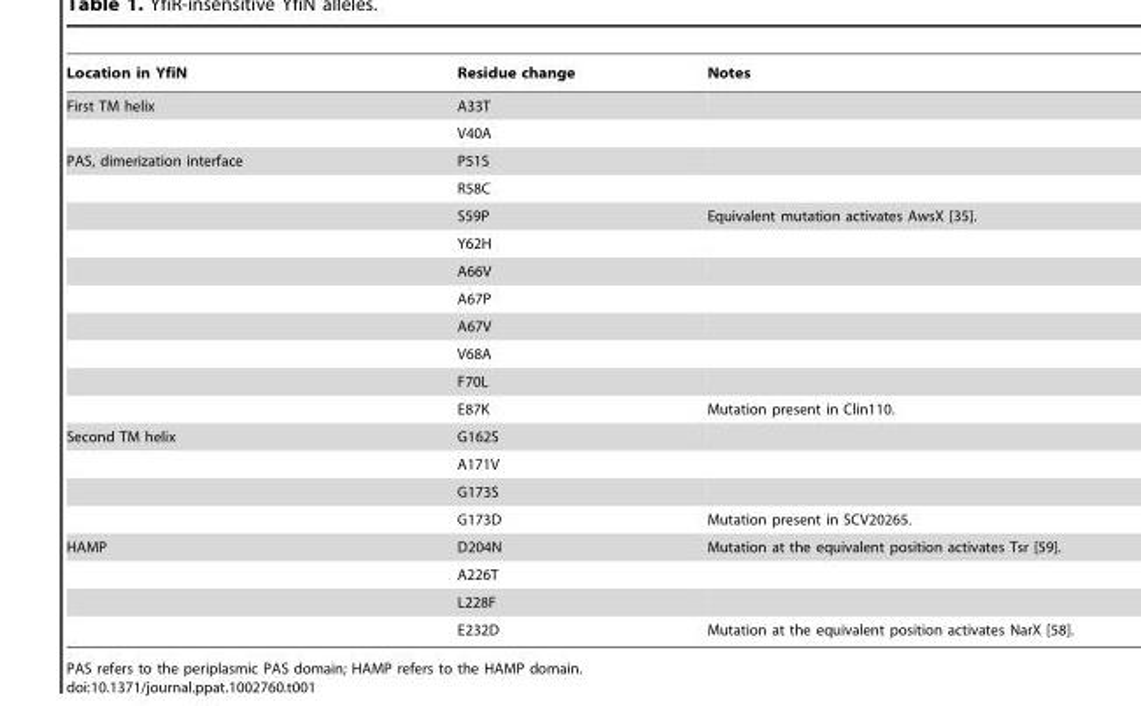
<table><thead><tr><td>Location in YfiN</td><td>Residue change</td><td>Notes</td></tr></thead><tbody><tr><td rowspan="2">First TM helix</td><td>A33T</td><td></td></tr><tr><td>V40A</td><td></td></tr><tr><td rowspan="10">PAS, dimerization interface</td><td>P51S</td><td></td></tr><tr><td>R58C</td><td></td></tr><tr><td>S59P</td><td>Equivalent mutation activates AwsX [35].</td></tr><tr><td>Y62H</td><td></td></tr><tr><td>A66V</td><td></td></tr><tr><td>A67P</td><td></td></tr><tr><td>A67V</td><td></td></tr><tr><td>V68A</td><td></td></tr><tr><td>F70L</td><td></td></tr><tr><td>E87K</td><td>Mutation present in Clin110.</td></tr><tr><td rowspan="4">Second TM helix</td><td>G162S</td><td></td></tr><tr><td>A171V</td><td></td></tr><tr><td>G173S</td><td></td></tr><tr><td>G173D</td><td>Mutation present in SCV20265.</td></tr><tr><td rowspan="4">HAMP</td><td>D204N</td><td>Mutation at the equivalent position activates Tsr [59].</td></tr><tr><td>A226T</td><td></td></tr><tr><td>L228F</td><td></td></tr><tr><td>E232D</td><td>Mutation at the equivalent position activates NarX [58].</td></tr></tbody></table>